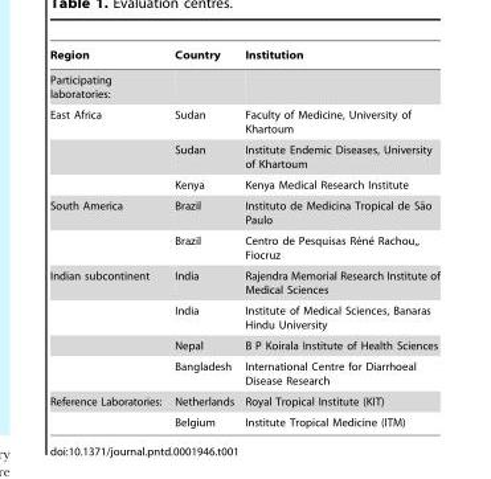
<table><thead><tr><td>Region</td><td>Country</td><td>Institution</td></tr></thead><tbody><tr><td colspan="3">Participating laboratories:</td></tr><tr><td rowspan="3">East Africa</td><td>Sudan</td><td>Faculty of Medicine, University of Khartoum</td></tr><tr><td>Sudan</td><td>Institute Endemic Diseases, University of Khartoum</td></tr><tr><td>Kenya</td><td>Kenya Medical Research Institute</td></tr><tr><td rowspan="2">South America</td><td>Brazil</td><td>Instituto de Medicina Tropical de Sa˜o Paulo</td></tr><tr><td>Brazil</td><td>Centro de Pesquisas Re´ne´ Rachou,, Fiocruz</td></tr><tr><td rowspan="4">Indian subcontinent</td><td>India</td><td>Rajendra Memorial Research Institute of Medical Sciences</td></tr><tr><td>India</td><td>Institute of Medical Sciences, Banaras Hindu University</td></tr><tr><td>Nepal</td><td>B P Koirala Institute of Health Sciences</td></tr><tr><td>Bangladesh</td><td>International Centre for Diarrhoeal Disease Research</td></tr><tr><td rowspan="2">Reference Laboratories:</td><td>Netherlands</td><td>Royal Tropical Institute (KIT)</td></tr><tr><td>Belgium</td><td>Institute Tropical Medicine (ITM)</td></tr></tbody></table>